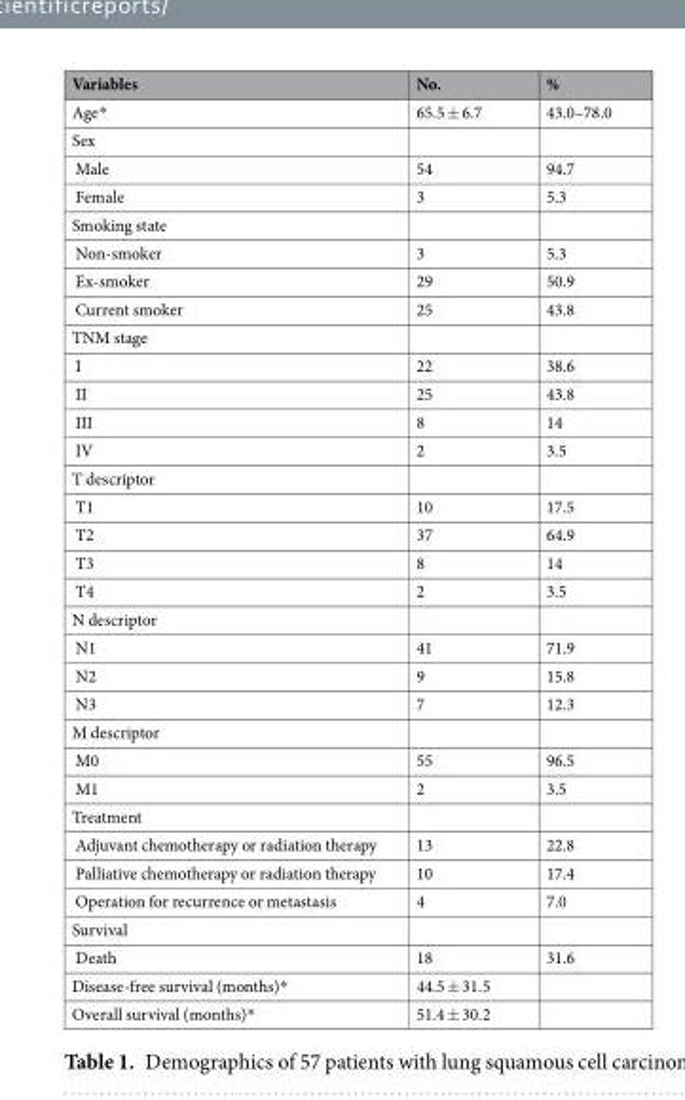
<table><thead><tr><td>Variables</td><td>No.</td><td>%</td></tr></thead><tbody><tr><td>Age*</td><td>65.5 ± 6.7</td><td>43.0–78.0</td></tr><tr><td colspan="3">Sex</td></tr><tr><td>Male</td><td>54</td><td>94.7</td></tr><tr><td>Female</td><td>3</td><td>5.3</td></tr><tr><td colspan="3">Smoking state</td></tr><tr><td>Non-smoker</td><td>3</td><td>5.3</td></tr><tr><td>Ex-smoker</td><td>29</td><td>50.9</td></tr><tr><td>Current smoker</td><td>25</td><td>43.8</td></tr><tr><td colspan="3">TNM stage</td></tr><tr><td>I</td><td>22</td><td>38.6</td></tr><tr><td>II</td><td>25</td><td>43.8</td></tr><tr><td>III</td><td>8</td><td>14</td></tr><tr><td>IV</td><td>2</td><td>3.5</td></tr><tr><td colspan="3">T descriptor</td></tr><tr><td>T1</td><td>10</td><td>17.5</td></tr><tr><td>T2</td><td>37</td><td>64.9</td></tr><tr><td>T3</td><td>8</td><td>14</td></tr><tr><td>T4</td><td>2</td><td>3.5</td></tr><tr><td colspan="3">N descriptor</td></tr><tr><td>N1</td><td>41</td><td>71.9</td></tr><tr><td>N2</td><td>9</td><td>15.8</td></tr><tr><td>N3</td><td>7</td><td>12.3</td></tr><tr><td colspan="3">M descriptor</td></tr><tr><td>M0</td><td>55</td><td>96.5</td></tr><tr><td>M1</td><td>2</td><td>3.5</td></tr><tr><td colspan="3">Treatment</td></tr><tr><td>Adjuvant chemotherapy or radiation therapy</td><td>13</td><td>22.8</td></tr><tr><td>Palliative chemotherapy or radiation therapy</td><td>10</td><td>17.4</td></tr><tr><td>Operation for recurrence or metastasis</td><td>4</td><td>7.0</td></tr><tr><td colspan="3">Survival</td></tr><tr><td>Death</td><td>18</td><td>31.6</td></tr><tr><td>Disease-free survival (months)*</td><td>44.5 ± 31.5</td><td></td></tr><tr><td>Overall survival (months)*</td><td>51.4 ± 30.2</td><td></td></tr></tbody></table>